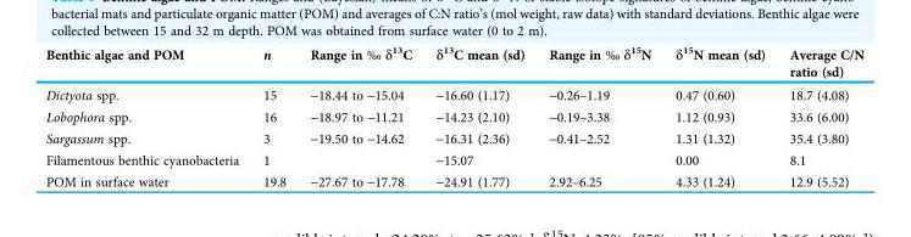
<table><thead><tr><td>Benthic algae and POM</td><td>n</td><td>Range in ‰ δ<sup>13</sup>C</td><td>δ<sup>13</sup>C mean (sd)</td><td>Range in ‰ δ<sup>15</sup>N</td><td>δ<sup>15</sup>N mean (sd)</td><td>Average C/N ratio (sd)</td></tr></thead><tbody><tr><td>Dictyota spp.</td><td>15</td><td>-18.44 to -15.04</td><td>-16.60 (1.17)</td><td>-0.26–1.19</td><td>0.47 (0.60)</td><td>18.7 (4.08)</td></tr><tr><td>Lobophora spp.</td><td>16</td><td>-18.97 to -11.21</td><td>-14.23 (2.10)</td><td>-0.19–3.38</td><td>1.12 (0.93)</td><td>33.6 (6.00)</td></tr><tr><td>Sargassum spp.</td><td>3</td><td>-19.50 to -14.62</td><td>-16.31 (2.36)</td><td>-0.41–2.52</td><td>1.31 (1.32)</td><td>35.4 (3.80)</td></tr><tr><td>Filamentous benthic cyanobacteria</td><td>1</td><td></td><td>-15.07</td><td></td><td>0.00</td><td>8.1</td></tr><tr><td>POM in surface water</td><td>19.8</td><td>-27.67 to -17.78</td><td>-24.91 (1.77)</td><td>2.92–6.25</td><td>4.33 (1.24)</td><td>12.9 (5.52)</td></tr></tbody></table>